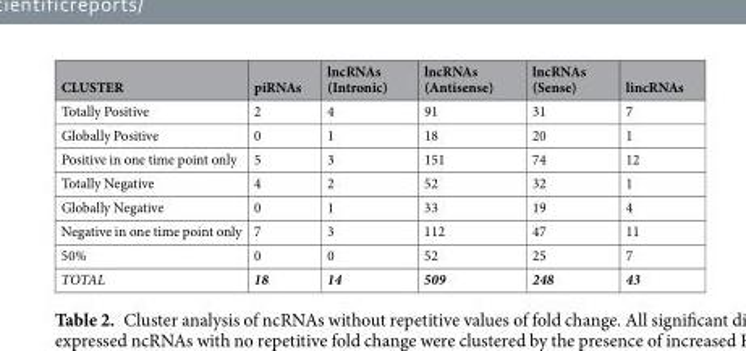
<table><thead><tr><td>CLUSTER</td><td>piRNAs</td><td>lncRNAs (Intronic)</td><td>lncRNAs (Antisense)</td><td>lncRNAs (Sense)</td><td>lincRNAs</td></tr></thead><tbody><tr><td>Totally Positive</td><td>2</td><td>4</td><td>91</td><td>31</td><td>7</td></tr><tr><td>Globally Positive</td><td>0</td><td>1</td><td>18</td><td>20</td><td>1</td></tr><tr><td>Positive in one time point only</td><td>5</td><td>3</td><td>151</td><td>74</td><td>12</td></tr><tr><td>Totally Negative</td><td>4</td><td>2</td><td>52</td><td>32</td><td>1</td></tr><tr><td>Globally Negative</td><td>0</td><td>1</td><td>33</td><td>19</td><td>4</td></tr><tr><td>Negative in one time point only</td><td>7</td><td>3</td><td>112</td><td>47</td><td>11</td></tr><tr><td>50%</td><td>0</td><td>0</td><td>52</td><td>25</td><td>7</td></tr><tr><td>TOTAL</td><td>18</td><td>14</td><td>509</td><td>248</td><td>43</td></tr></tbody></table>